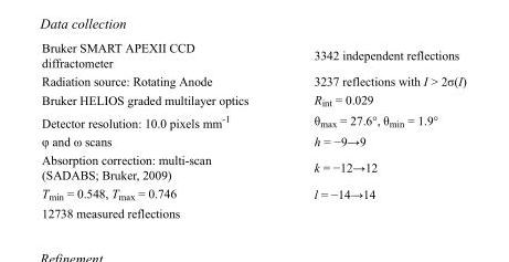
<table><tbody><tr><td>Bruker SMART APEXII CCD diffractometer</td><td>3342 independent reflections</td></tr><tr><td>Radiation source: Rotating Anode</td><td>3237 reflections with I &gt; 2σ(I)</td></tr><tr><td>Bruker HELIOS graded multilayer optics</td><td>R<sub>int</sub> = 0.029</td></tr><tr><td>Detector resolution: 10.0 pixels mm<sup>-1</sup></td><td>θ<sub>max</sub> = 27.6°, θ<sub>min</sub> = 1.9°</td></tr><tr><td>φ and ω scans</td><td>h = −9→9</td></tr><tr><td>Absorption correction: multi-scan (SADABS; Bruker, 2009)</td><td>k = −12→12</td></tr><tr><td>T<sub>min</sub> = 0.548, T<sub>max</sub> = 0.746</td><td>l = −14→14</td></tr><tr><td>12738 measured reflections</td><td></td></tr></tbody></table>